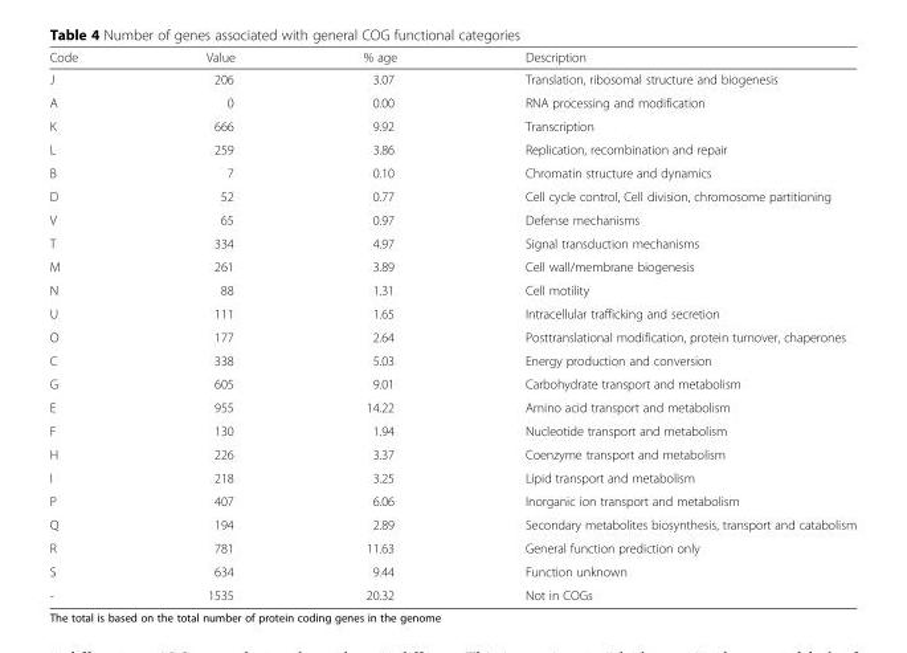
<table><thead><tr><td>Code</td><td>Value</td><td>% age</td><td>Description</td></tr></thead><tbody><tr><td>J</td><td>206</td><td>3.07</td><td>Translation, ribosomal structure and biogenesis</td></tr><tr><td>A</td><td>0</td><td>0.00</td><td>RNA processing and modification</td></tr><tr><td>K</td><td>666</td><td>9.92</td><td>Transcription</td></tr><tr><td>L</td><td>259</td><td>3.86</td><td>Replication, recombination and repair</td></tr><tr><td>B</td><td>7</td><td>0.10</td><td>Chromatin structure and dynamics</td></tr><tr><td>D</td><td>52</td><td>0.77</td><td>Cell cycle control, Cell division, chromosome partitioning</td></tr><tr><td>V</td><td>65</td><td>0.97</td><td>Defense mechanisms</td></tr><tr><td>T</td><td>334</td><td>4.97</td><td>Signal transduction mechanisms</td></tr><tr><td>M</td><td>261</td><td>3.89</td><td>Cell wall/membrane biogenesis</td></tr><tr><td>N</td><td>88</td><td>1.31</td><td>Cell motility</td></tr><tr><td>U</td><td>111</td><td>1.65</td><td>Intracellular trafficking and secretion</td></tr><tr><td>O</td><td>177</td><td>2.64</td><td>Posttranslational modification, protein turnover, chaperones</td></tr><tr><td>C</td><td>338</td><td>5.03</td><td>Energy production and conversion</td></tr><tr><td>G</td><td>605</td><td>9.01</td><td>Carbohydrate transport and metabolism</td></tr><tr><td>E</td><td>955</td><td>14.22</td><td>Amino acid transport and metabolism</td></tr><tr><td>F</td><td>130</td><td>1.94</td><td>Nucleotide transport and metabolism</td></tr><tr><td>H</td><td>226</td><td>3.37</td><td>Coenzyme transport and metabolism</td></tr><tr><td>I</td><td>218</td><td>3.25</td><td>Lipid transport and metabolism</td></tr><tr><td>P</td><td>407</td><td>6.06</td><td>Inorganic ion transport and metabolism</td></tr><tr><td>Q</td><td>194</td><td>2.89</td><td>Secondary metabolites biosynthesis, transport and catabolism</td></tr><tr><td>R</td><td>781</td><td>11.63</td><td>General function prediction only</td></tr><tr><td>S</td><td>634</td><td>9.44</td><td>Function unknown</td></tr><tr><td>-</td><td>1535</td><td>20.32</td><td>Not in COGs</td></tr></tbody></table>